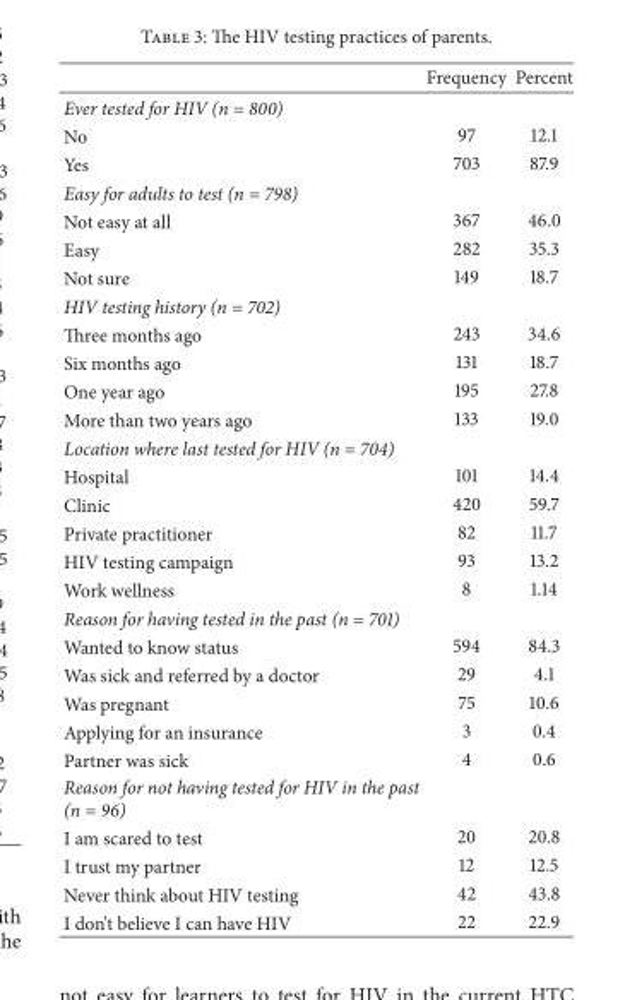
<table><thead><tr><td></td><td>Frequency</td><td>Percent</td></tr></thead><tbody><tr><td colspan="3">Ever tested for HIV (n = 800)</td></tr><tr><td>No</td><td>97</td><td>12.1</td></tr><tr><td>Yes</td><td>703</td><td>87.9</td></tr><tr><td colspan="3">Easy for adults to test (n = 798)</td></tr><tr><td>Not easy at all</td><td>367</td><td>46.0</td></tr><tr><td>Easy</td><td>282</td><td>35.3</td></tr><tr><td>Not sure</td><td>149</td><td>18.7</td></tr><tr><td colspan="3">HIV testing history (n = 702)</td></tr><tr><td>Three months ago</td><td>243</td><td>34.6</td></tr><tr><td>Six months ago</td><td>131</td><td>18.7</td></tr><tr><td>One year ago</td><td>195</td><td>27.8</td></tr><tr><td>More than two years ago</td><td>133</td><td>19.0</td></tr><tr><td colspan="3">Location where last tested for HIV (n = 704)</td></tr><tr><td>Hospital</td><td>101</td><td>14.4</td></tr><tr><td>Clinic</td><td>420</td><td>59.7</td></tr><tr><td>Private practitioner</td><td>82</td><td>11.7</td></tr><tr><td>HIV testing campaign</td><td>93</td><td>13.2</td></tr><tr><td>Work wellness</td><td>8</td><td>1.14</td></tr><tr><td colspan="3">Reason for having tested in the past (n = 701)</td></tr><tr><td>Wanted to know status</td><td>594</td><td>84.3</td></tr><tr><td>Was sick and referred by a doctor</td><td>29</td><td>4.1</td></tr><tr><td>Was pregnant</td><td>75</td><td>10.6</td></tr><tr><td>Applying for an insurance</td><td>3</td><td>0.4</td></tr><tr><td>Partner was sick</td><td>4</td><td>0.6</td></tr><tr><td colspan="3">Reason for not having tested for HIV in the past (n = 96)</td></tr><tr><td>I am scared to test</td><td>20</td><td>20.8</td></tr><tr><td>I trust my partner</td><td>12</td><td>12.5</td></tr><tr><td>Never think about HIV testing</td><td>42</td><td>43.8</td></tr><tr><td>I don’t believe I can have HIV</td><td>22</td><td>22.9</td></tr></tbody></table>